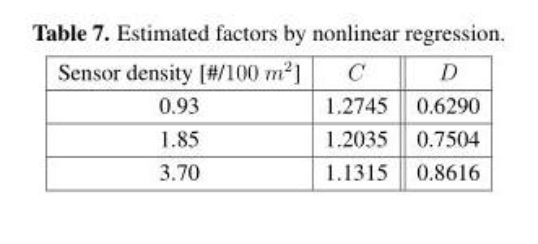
<table><thead><tr><td>Sensor density [#/100 m<sup>2</sup>]</td><td>C</td><td>D</td></tr></thead><tbody><tr><td>0.93</td><td>1.2745</td><td>0.6290</td></tr><tr><td>1.85</td><td>1.2035</td><td>0.7504</td></tr><tr><td>3.70</td><td>1.1315</td><td>0.8616</td></tr></tbody></table>